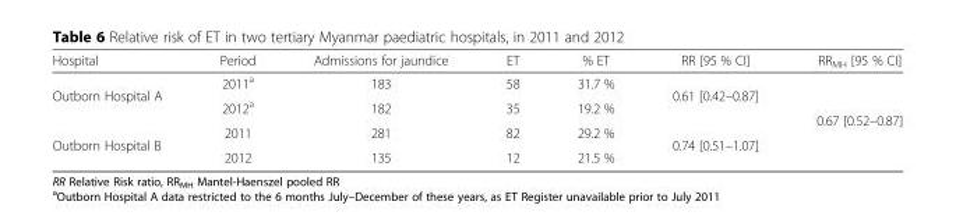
<table><thead><tr><td>Hospital</td><td>Period</td><td>Admissions for jaundice</td><td>ET</td><td>% ET</td><td>RR [95 % CI]</td><td>RR<sub>MH</sub> [95 % CI]</td></tr></thead><tbody><tr><td rowspan="2">Outborn Hospital A</td><td>2011<sup>a</sup></td><td>183</td><td>58</td><td>31.7 %</td><td rowspan="2">0.61 [0.42–0.87]</td><td rowspan="4">0.67 [0.52–0.87]</td></tr><tr><td>2012<sup>a</sup></td><td>182</td><td>35</td><td>19.2 %</td></tr><tr><td rowspan="2">Outborn Hospital B</td><td>2011</td><td>281</td><td>82</td><td>29.2 %</td><td rowspan="2">0.74 [0.51–1.07]</td></tr><tr><td>2012</td><td>135</td><td>12</td><td>21.5 %</td></tr></tbody></table>